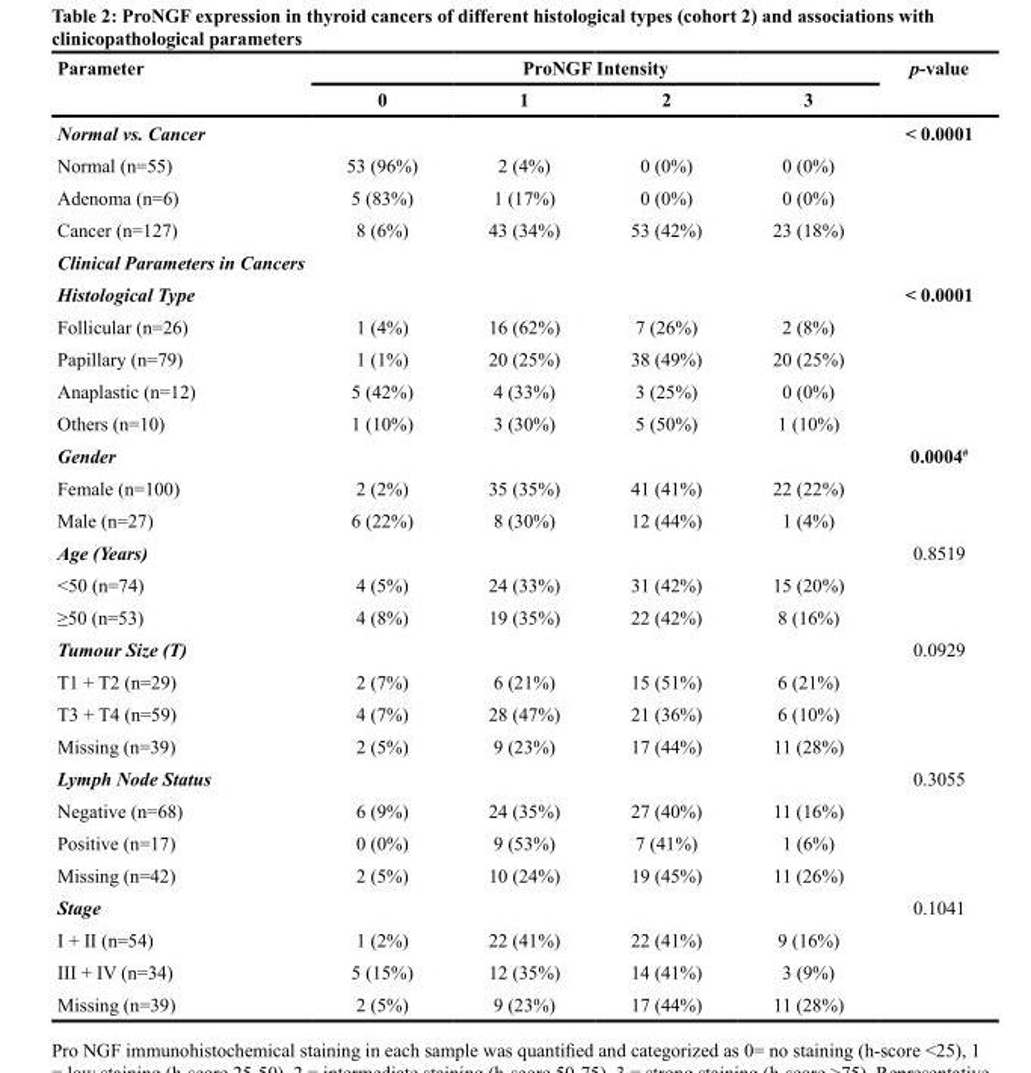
<table><thead><tr><td rowspan="2">Parameter</td><td colspan="4">ProNGF Intensity</td><td rowspan="2">p-value</td></tr><tr><td>0</td><td>1</td><td>2</td><td>3</td></tr></thead><tbody><tr><td>Normal vs. Cancer</td><td></td><td></td><td></td><td></td><td>&lt; 0.0001</td></tr><tr><td>Normal (n=55)</td><td>53 (96%)</td><td>2 (4%)</td><td>0 (0%)</td><td>0 (0%)</td><td></td></tr><tr><td>Adenoma (n=6)</td><td>5 (83%)</td><td>1 (17%)</td><td>0 (0%)</td><td>0 (0%)</td><td></td></tr><tr><td>Cancer (n=127)</td><td>8 (6%)</td><td>43 (34%)</td><td>53 (42%)</td><td>23 (18%)</td><td></td></tr><tr><td colspan="6">Clinical Parameters in Cancers</td></tr><tr><td>Histological Type</td><td></td><td></td><td></td><td></td><td>&lt; 0.0001</td></tr><tr><td>Follicular (n=26)</td><td>1 (4%)</td><td>16 (62%)</td><td>7 (26%)</td><td>2 (8%)</td><td></td></tr><tr><td>Papillary (n=79)</td><td>1 (1%)</td><td>20 (25%)</td><td>38 (49%)</td><td>20 (25%)</td><td></td></tr><tr><td>Anaplastic (n=12)</td><td>5 (42%)</td><td>4 (33%)</td><td>3 (25%)</td><td>0 (0%)</td><td></td></tr><tr><td>Others (n=10)</td><td>1 (10%)</td><td>3 (30%)</td><td>5 (50%)</td><td>1 (10%)</td><td></td></tr><tr><td>Gender</td><td></td><td></td><td></td><td></td><td>0.0004<sup>#</sup></td></tr><tr><td>Female (n=100)</td><td>2 (2%)</td><td>35 (35%)</td><td>41 (41%)</td><td>22 (22%)</td><td></td></tr><tr><td>Male (n=27)</td><td>6 (22%)</td><td>8 (30%)</td><td>12 (44%)</td><td>1 (4%)</td><td></td></tr><tr><td>Age (Years)</td><td></td><td></td><td></td><td></td><td>0.8519</td></tr><tr><td>&lt;50 (n=74)</td><td>4 (5%)</td><td>24 (33%)</td><td>31 (42%)</td><td>15 (20%)</td><td></td></tr><tr><td>≥50 (n=53)</td><td>4 (8%)</td><td>19 (35%)</td><td>22 (42%)</td><td>8 (16%)</td><td></td></tr><tr><td>Tumour Size (T)</td><td></td><td></td><td></td><td></td><td>0.0929</td></tr><tr><td>T1 + T2 (n=29)</td><td>2 (7%)</td><td>6 (21%)</td><td>15 (51%)</td><td>6 (21%)</td><td></td></tr><tr><td>T3 + T4 (n=59)</td><td>4 (7%)</td><td>28 (47%)</td><td>21 (36%)</td><td>6 (10%)</td><td></td></tr><tr><td>Missing (n=39)</td><td>2 (5%)</td><td>9 (23%)</td><td>17 (44%)</td><td>11 (28%)</td><td></td></tr><tr><td>Lymph Node Status</td><td></td><td></td><td></td><td></td><td>0.3055</td></tr><tr><td>Negative (n=68)</td><td>6 (9%)</td><td>24 (35%)</td><td>27 (40%)</td><td>11 (16%)</td><td></td></tr><tr><td>Positive (n=17)</td><td>0 (0%)</td><td>9 (53%)</td><td>7 (41%)</td><td>1 (6%)</td><td></td></tr><tr><td>Missing (n=42)</td><td>2 (5%)</td><td>10 (24%)</td><td>19 (45%)</td><td>11 (26%)</td><td></td></tr><tr><td>Stage</td><td></td><td></td><td></td><td></td><td>0.1041</td></tr><tr><td>I + II (n=54)</td><td>1 (2%)</td><td>22 (41%)</td><td>22 (41%)</td><td>9 (16%)</td><td></td></tr><tr><td>III + IV (n=34)</td><td>5 (15%)</td><td>12 (35%)</td><td>14 (41%)</td><td>3 (9%)</td><td></td></tr><tr><td>Missing (n=39)</td><td>2 (5%)</td><td>9 (23%)</td><td>17 (44%)</td><td>11 (28%)</td><td></td></tr></tbody></table>